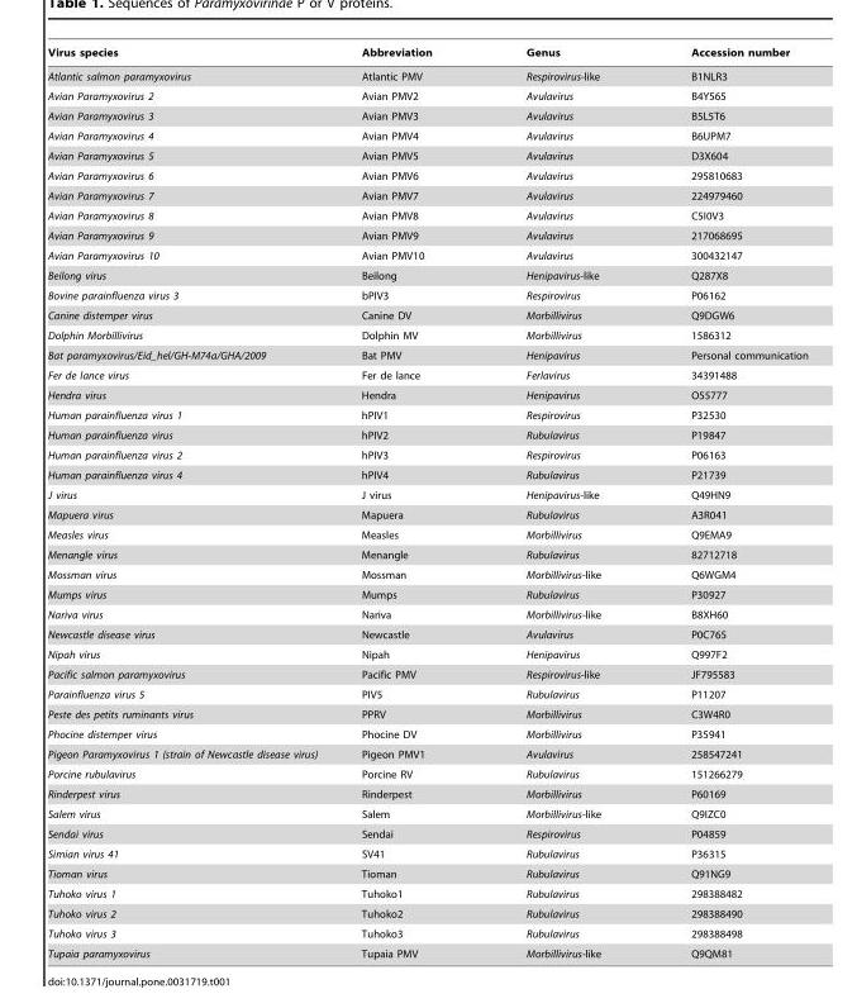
<table><thead><tr><td>Virus species</td><td>Abbreviation</td><td>Genus</td><td>Accession number</td></tr></thead><tbody><tr><td>Atlantic salmon paramyxovirus</td><td>Atlantic PMV</td><td>Respirovirus-like</td><td>B1NLR3</td></tr><tr><td>Avian Paramyxovirus 2</td><td>Avian PMV2</td><td>Avulavirus</td><td>B4Y565</td></tr><tr><td>Avian Paramyxovirus 3</td><td>Avian PMV3</td><td>Avulavirus</td><td>B5L5T6</td></tr><tr><td>Avian Paramyxovirus 4</td><td>Avian PMV4</td><td>Avulavirus</td><td>B6UPM7</td></tr><tr><td>Avian Paramyxovirus 5</td><td>Avian PMV5</td><td>Avulavirus</td><td>D3X604</td></tr><tr><td>Avian Paramyxovirus 6</td><td>Avian PMV6</td><td>Avulavirus</td><td>295810683</td></tr><tr><td>Avian Paramyxovirus 7</td><td>Avian PMV7</td><td>Avulavirus</td><td>224979460</td></tr><tr><td>Avian Paramyxovirus 8</td><td>Avian PMV8</td><td>Avulavirus</td><td>C5I0V3</td></tr><tr><td>Avian Paramyxovirus 9</td><td>Avian PMV9</td><td>Avulavirus</td><td>217068695</td></tr><tr><td>Avian Paramyxovirus 10</td><td>Avian PMV10</td><td>Avulavirus</td><td>300432147</td></tr><tr><td>Beilong virus</td><td>Beilong</td><td>Henipavirus-like</td><td>Q287X8</td></tr><tr><td>Bovine parainfluenza virus 3</td><td>bPIV3</td><td>Respirovirus</td><td>P06162</td></tr><tr><td>Canine distemper virus</td><td>Canine DV</td><td>Morbillivirus</td><td>Q9DGW6</td></tr><tr><td>Dolphin Morbillivirus</td><td>Dolphin MV</td><td>Morbillivirus</td><td>1586312</td></tr><tr><td>Bat paramyxovirus/Eid_hel/GH-M74a/GHA/2009</td><td>Bat PMV</td><td>Henipavirus</td><td>Personal communication</td></tr><tr><td>Fer de lance virus</td><td>Fer de lance</td><td>Ferlavirus</td><td>34391488</td></tr><tr><td>Hendra virus</td><td>Hendra</td><td>Henipavirus</td><td>O55777</td></tr><tr><td>Human parainfluenza virus 1</td><td>hPIV1</td><td>Respirovirus</td><td>P32530</td></tr><tr><td>Human parainfluenza virus</td><td>hPIV2</td><td>Rubulavirus</td><td>P19847</td></tr><tr><td>Human parainfluenza virus 2</td><td>hPIV3</td><td>Respirovirus</td><td>P06163</td></tr><tr><td>Human parainfluenza virus 4</td><td>hPIV4</td><td>Rubulavirus</td><td>P21739</td></tr><tr><td>J virus</td><td>J virus</td><td>Henipavirus-like</td><td>Q49HN9</td></tr><tr><td>Mapuera virus</td><td>Mapuera</td><td>Rubulavirus</td><td>A3R041</td></tr><tr><td>Measles virus</td><td>Measles</td><td>Morbillivirus</td><td>Q9EMA9</td></tr><tr><td>Menangle virus</td><td>Menangle</td><td>Rubulavirus</td><td>82712718</td></tr><tr><td>Mossman virus</td><td>Mossman</td><td>Morbillivirus-like</td><td>Q6WGM4</td></tr><tr><td>Mumps virus</td><td>Mumps</td><td>Rubulavirus</td><td>P30927</td></tr><tr><td>Nariva virus</td><td>Nariva</td><td>Morbillivirus-like</td><td>B8XH60</td></tr><tr><td>Newcastle disease virus</td><td>Newcastle</td><td>Avulavirus</td><td>P0C765</td></tr><tr><td>Nipah virus</td><td>Nipah</td><td>Henipavirus</td><td>Q997F2</td></tr><tr><td>Pacific salmon paramyxovirus</td><td>Pacific PMV</td><td>Respirovirus-like</td><td>JF795583</td></tr><tr><td>Parainfluenza virus 5</td><td>PIV5</td><td>Rubulavirus</td><td>P11207</td></tr><tr><td>Peste des petits ruminants virus</td><td>PPRV</td><td>Morbillivirus</td><td>C3W4R0</td></tr><tr><td>Phocine distemper virus</td><td>Phocine DV</td><td>Morbillivirus</td><td>P35941</td></tr><tr><td>Pigeon Paramyxovirus 1 (strain of Newcastle disease virus)</td><td>Pigeon PMV1</td><td>Avulavirus</td><td>258547241</td></tr><tr><td>Porcine rubulavirus</td><td>Porcine RV</td><td>Rubulavirus</td><td>151266279</td></tr><tr><td>Rinderpest virus</td><td>Rinderpest</td><td>Morbillivirus</td><td>P60169</td></tr><tr><td>Salem virus</td><td>Salem</td><td>Morbillivirus-like</td><td>Q9IZC0</td></tr><tr><td>Sendai virus</td><td>Sendai</td><td>Respirovirus</td><td>P04859</td></tr><tr><td>Simian virus 41</td><td>SV41</td><td>Rubulavirus</td><td>P36315</td></tr><tr><td>Tioman virus</td><td>Tioman</td><td>Rubulavirus</td><td>Q91NG9</td></tr><tr><td>Tuhoko virus 1</td><td>Tuhoko1</td><td>Rubulavirus</td><td>298388482</td></tr><tr><td>Tuhoko virus 2</td><td>Tuhoko2</td><td>Rubulavirus</td><td>298388490</td></tr><tr><td>Tuhoko virus 3</td><td>Tuhoko3</td><td>Rubulavirus</td><td>298388498</td></tr><tr><td>Tupaia paramyxovirus</td><td>Tupaia PMV</td><td>Morbillivirus-like</td><td>Q9QM81</td></tr></tbody></table>